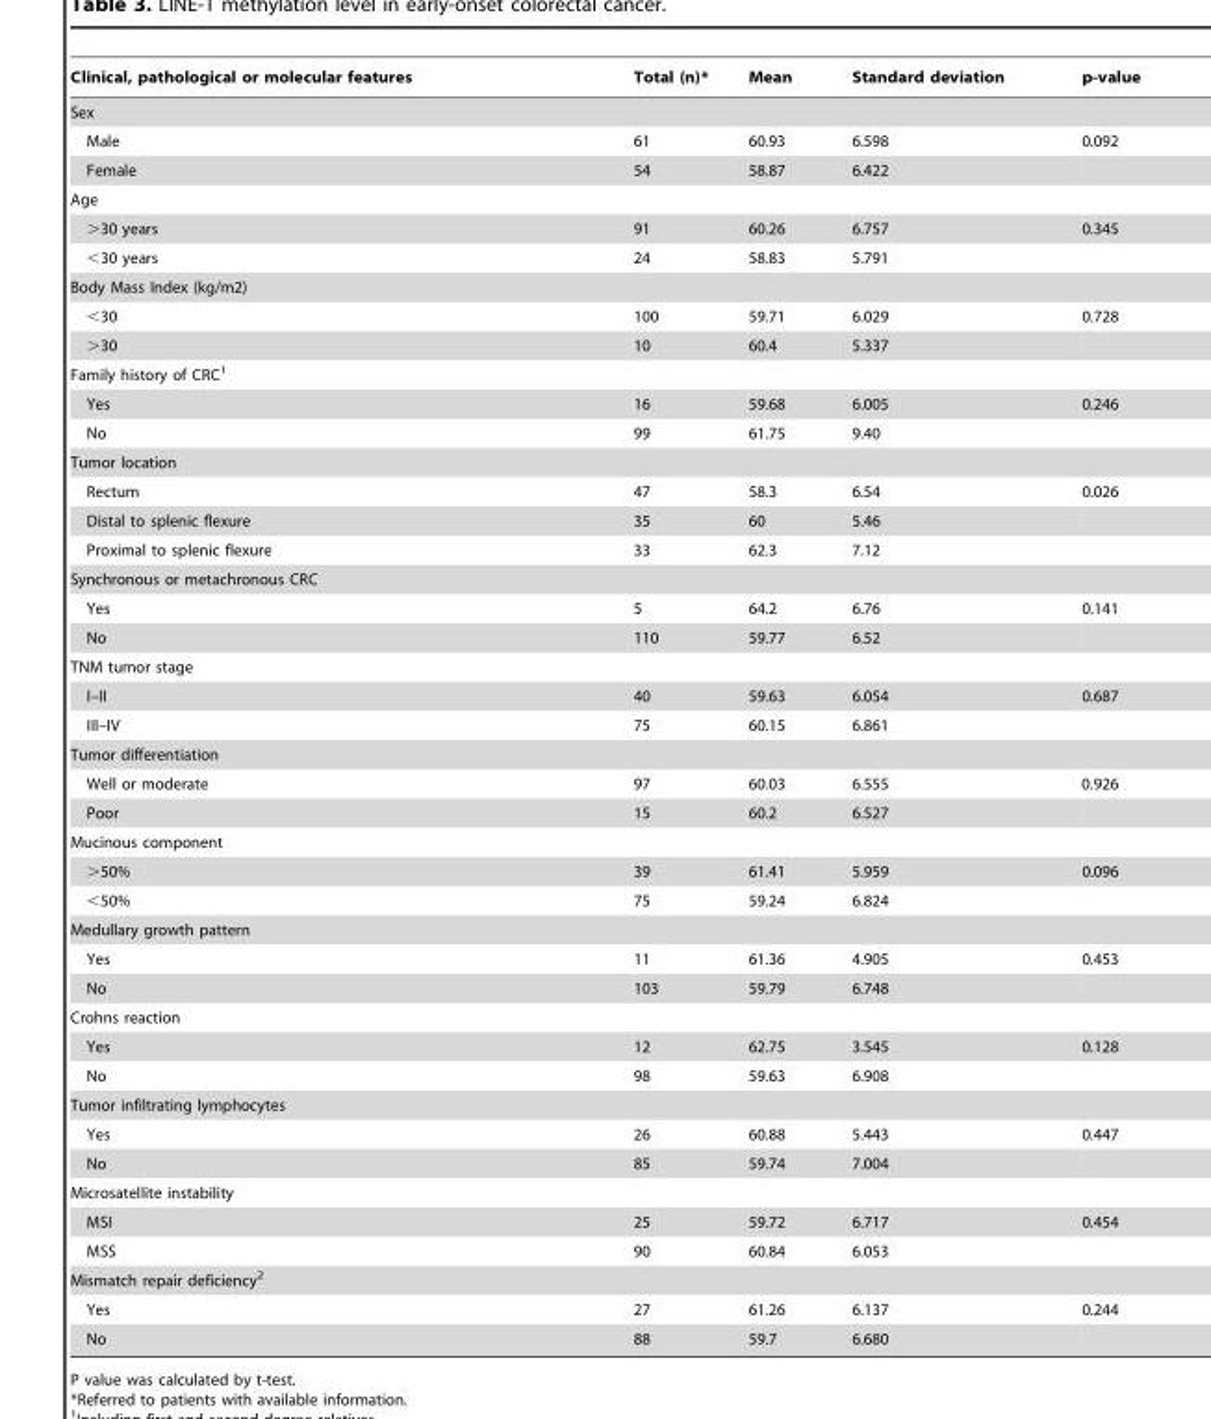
<table><thead><tr><td>Clinical, pathological or molecular features</td><td>Total (n)*</td><td>Mean</td><td>Standard deviation</td><td>p-value</td></tr></thead><tbody><tr><td colspan="5">Sex</td></tr><tr><td>Male</td><td>61</td><td>60.93</td><td>6.598</td><td>0.092</td></tr><tr><td>Female</td><td>54</td><td>58.87</td><td>6.422</td><td></td></tr><tr><td colspan="5">Age</td></tr><tr><td>&gt;30 years</td><td>91</td><td>60.26</td><td>6.757</td><td>0.345</td></tr><tr><td>&lt;30 years</td><td>24</td><td>58.83</td><td>5.791</td><td></td></tr><tr><td colspan="5">Body Mass Index (kg/m2)</td></tr><tr><td>&lt;30</td><td>100</td><td>59.71</td><td>6.029</td><td>0.728</td></tr><tr><td>&gt;30</td><td>10</td><td>60.4</td><td>5.337</td><td></td></tr><tr><td colspan="5">Family history of CRC<sup>1</sup></td></tr><tr><td>Yes</td><td>16</td><td>59.68</td><td>6.005</td><td>0.246</td></tr><tr><td>No</td><td>99</td><td>61.75</td><td>9.40</td><td></td></tr><tr><td colspan="5">Tumor location</td></tr><tr><td>Rectum</td><td>47</td><td>58.3</td><td>6.54</td><td>0.026</td></tr><tr><td>Distal to splenic flexure</td><td>35</td><td>60</td><td>5.46</td><td></td></tr><tr><td>Proximal to splenic flexure</td><td>33</td><td>62.3</td><td>7.12</td><td></td></tr><tr><td colspan="5">Synchronous or metachronous CRC</td></tr><tr><td>Yes</td><td>5</td><td>64.2</td><td>6.76</td><td>0.141</td></tr><tr><td>No</td><td>110</td><td>59.77</td><td>6.52</td><td></td></tr><tr><td colspan="5">TNM tumor stage</td></tr><tr><td>I–II</td><td>40</td><td>59.63</td><td>6.054</td><td>0.687</td></tr><tr><td>III–IV</td><td>75</td><td>60.15</td><td>6.861</td><td></td></tr><tr><td colspan="5">Tumor differentiation</td></tr><tr><td>Well or moderate</td><td>97</td><td>60.03</td><td>6.555</td><td>0.926</td></tr><tr><td>Poor</td><td>15</td><td>60.2</td><td>6.527</td><td></td></tr><tr><td colspan="5">Mucinous component</td></tr><tr><td>&gt;50%</td><td>39</td><td>61.41</td><td>5.959</td><td>0.096</td></tr><tr><td>&lt;50%</td><td>75</td><td>59.24</td><td>6.824</td><td></td></tr><tr><td colspan="5">Medullary growth pattern</td></tr><tr><td>Yes</td><td>11</td><td>61.36</td><td>4.905</td><td>0.453</td></tr><tr><td>No</td><td>103</td><td>59.79</td><td>6.748</td><td></td></tr><tr><td colspan="5">Crohns reaction</td></tr><tr><td>Yes</td><td>12</td><td>62.75</td><td>3.545</td><td>0.128</td></tr><tr><td>No</td><td>98</td><td>59.63</td><td>6.908</td><td></td></tr><tr><td colspan="5">Tumor infiltrating lymphocytes</td></tr><tr><td>Yes</td><td>26</td><td>60.88</td><td>5.443</td><td>0.447</td></tr><tr><td>No</td><td>85</td><td>59.74</td><td>7.004</td><td></td></tr><tr><td colspan="5">Microsatellite instability</td></tr><tr><td>MSI</td><td>25</td><td>59.72</td><td>6.717</td><td>0.454</td></tr><tr><td>MSS</td><td>90</td><td>60.84</td><td>6.053</td><td></td></tr><tr><td colspan="5">Mismatch repair deficiency<sup>2</sup></td></tr><tr><td>Yes</td><td>27</td><td>61.26</td><td>6.137</td><td>0.244</td></tr><tr><td>No</td><td>88</td><td>59.7</td><td>6.680</td><td></td></tr></tbody></table>